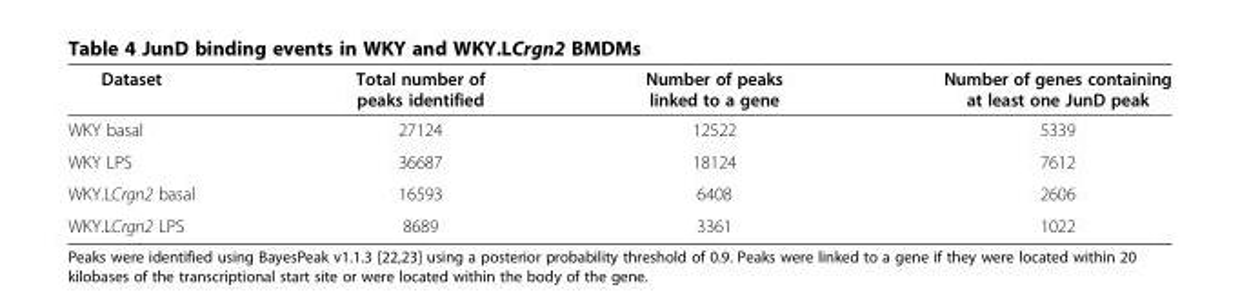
<table><thead><tr><td>Dataset</td><td>Total number of peaks identified</td><td>Number of peaks linked to a gene</td><td>Number of genes containing at least one JunD peak</td></tr></thead><tbody><tr><td>WKY basal</td><td>27124</td><td>12522</td><td>5339</td></tr><tr><td>WKY LPS</td><td>36687</td><td>18124</td><td>7612</td></tr><tr><td>WKY.LCrgn2 basal</td><td>16593</td><td>6408</td><td>2606</td></tr><tr><td>WKY.LCrgn2 LPS</td><td>8689</td><td>3361</td><td>1022</td></tr></tbody></table>